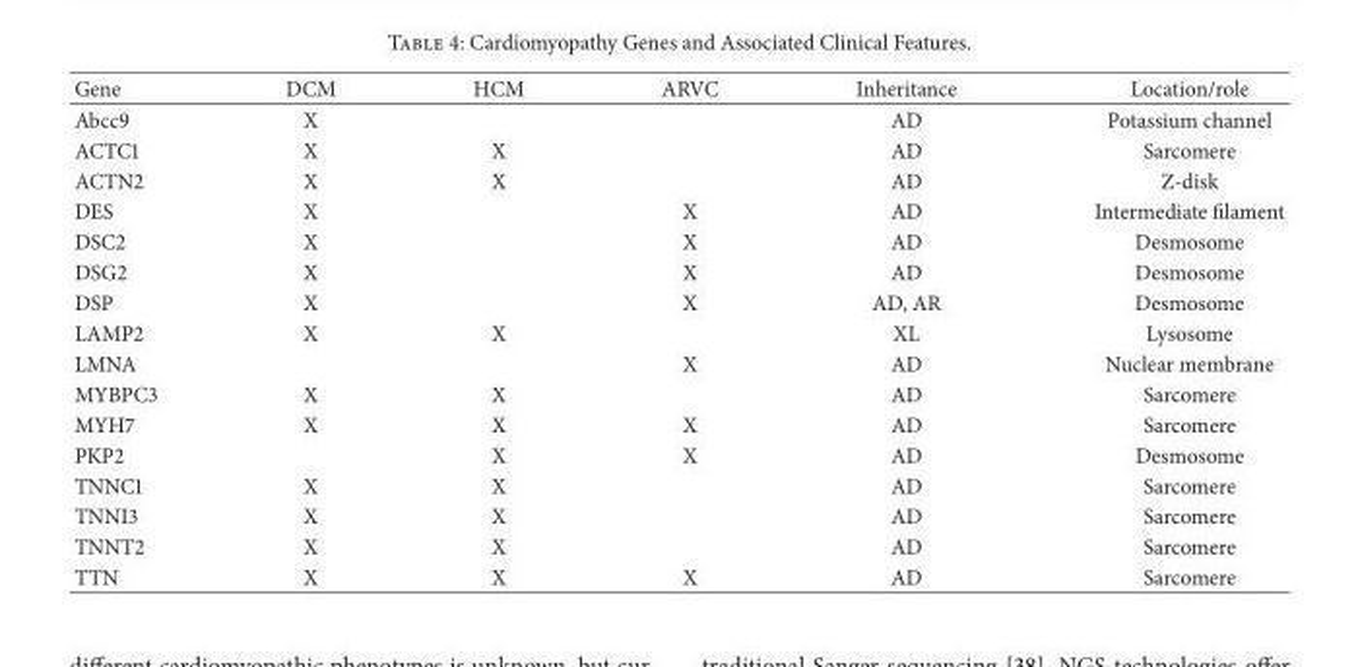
<table><thead><tr><td>Gene</td><td>DCM</td><td>HCM</td><td>ARVC</td><td>Inheritance</td><td>Location/role</td></tr></thead><tbody><tr><td>Abcc9</td><td>X</td><td></td><td></td><td>AD</td><td>Potassium channel</td></tr><tr><td>ACTC1</td><td>X</td><td>X</td><td></td><td>AD</td><td>Sarcomere</td></tr><tr><td>ACTN2</td><td>X</td><td>X</td><td></td><td>AD</td><td>Z-disk</td></tr><tr><td>DES</td><td>X</td><td></td><td>X</td><td>AD</td><td>Intermediate filament</td></tr><tr><td>DSC2</td><td>X</td><td></td><td>X</td><td>AD</td><td>Desmosome</td></tr><tr><td>DSG2</td><td>X</td><td></td><td>X</td><td>AD</td><td>Desmosome</td></tr><tr><td>DSP</td><td>X</td><td></td><td>X</td><td>AD, AR</td><td>Desmosome</td></tr><tr><td>LAMP2</td><td>X</td><td>X</td><td></td><td>XL</td><td>Lysosome</td></tr><tr><td>LMNA</td><td></td><td></td><td>X</td><td>AD</td><td>Nuclear membrane</td></tr><tr><td>MYBPC3</td><td>X</td><td>X</td><td></td><td>AD</td><td>Sarcomere</td></tr><tr><td>MYH7</td><td>X</td><td>X</td><td>X</td><td>AD</td><td>Sarcomere</td></tr><tr><td>PKP2</td><td></td><td>X</td><td>X</td><td>AD</td><td>Desmosome</td></tr><tr><td>TNNC1</td><td>X</td><td>X</td><td></td><td>AD</td><td>Sarcomere</td></tr><tr><td>TNNI3</td><td>X</td><td>X</td><td></td><td>AD</td><td>Sarcomere</td></tr><tr><td>TNNT2</td><td>X</td><td>X</td><td></td><td>AD</td><td>Sarcomere</td></tr><tr><td>TTN</td><td>X</td><td>X</td><td>X</td><td>AD</td><td>Sarcomere</td></tr></tbody></table>